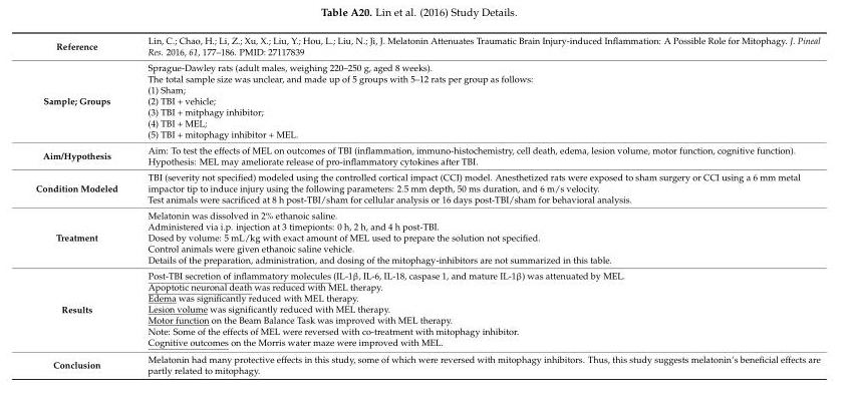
<table><tbody><tr><td>Reference</td><td>Lin, C.; Chao, H.; Li, Z.; Xu, X.; Liu, Y.; Hou, L.; Liu, N.; Ji, J. Melatonin Attenuates Traumatic Brain Injury-induced Inflammation: A Possible Role for Mitophagy. J. Pineal Res. 2016, 61, 177–186. PMID: 27117839</td></tr><tr><td>Sample; Groups</td><td>Sprague-Dawley rats (adult males, weighing 220–250 g, aged 8 weeks). The total sample size was unclear, and made up of 5 groups with 5–12 rats per group as follows: (1) Sham; (2) TBI + vehicle; (3) TBI + mitphagy inhibitor; (4) TBI + MEL; (5) TBI + mitophagy inhibitor + MEL.</td></tr><tr><td>Aim/Hypothesis</td><td>Aim: To test the effects of MEL on outcomes of TBI (inflammation, immuno-histochemistry, cell death, edema, lesion volume, motor function, cognitive function). Hypothesis: MEL may ameliorate release of pro-inflammatory cytokines after TBI.</td></tr><tr><td>Condition Modeled</td><td>TBI (severity not specified) modeled using the controlled cortical impact (CCI) model. Anesthetized rats were exposed to sham surgery or CCI using a 6 mm metal impactor tip to induce injury using the following parameters: 2.5 mm depth, 50 ms duration, and 6 m/s velocity. Test animals were sacrificed at 8 h post-TBI/sham for cellular analysis or 16 days post-TBI/sham for behavioral analysis.</td></tr><tr><td>Treatment</td><td>Melatonin was dissolved in 2% ethanoic saline. Administered via i.p. injection at 3 timepionts: 0 h, 2 h, and 4 h post-TBI. Dosed by volume: 5 mL/kg with exact amount of MEL used to prepare the solution not specified. Control animals were given ethanoic saline vehicle. Details of the preparation, administration, and dosing of the mitophagy-inhibitors are not summarized in this table.</td></tr><tr><td>Results</td><td>Post-TBI secretion of inflammatory molecules (IL-1β, IL-6, IL-18, caspase 1, and mature IL-1β) was attenuated by MEL. Apoptotic neuronal death was reduced with MEL therapy. Edema was significantly reduced with MEL therapy. Lesion volume was significantly reduced with MEL therapy. Motor function on the Beam Balance Task was improved with MEL therapy. Note: Some of the effects of MEL were reversed with co-treatment with mitophagy inhibitor. Cognitive outcomes on the Morris water maze were improved with MEL.</td></tr><tr><td>Conclusion</td><td>Melatonin had many protective effects in this study, some of which were reversed with mitophagy inhibitors. Thus, this study suggests melatonin’s beneficial effects are partly related to mitophagy.</td></tr></tbody></table>